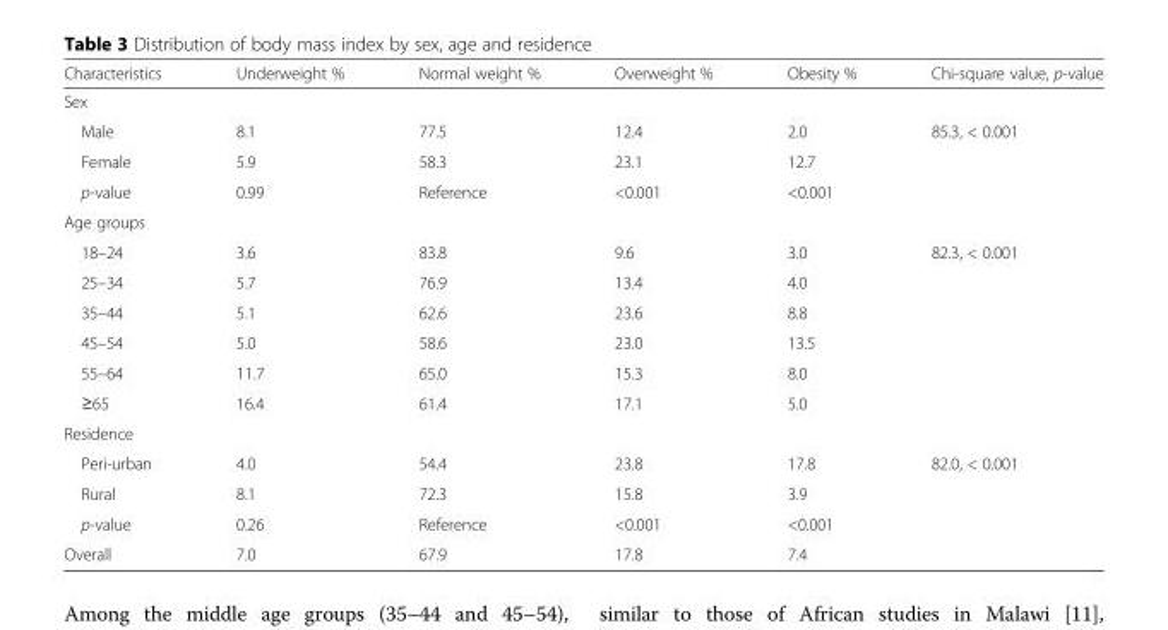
<table><thead><tr><td>Characteristics</td><td>Underweight %</td><td>Normal weight %</td><td>Overweight %</td><td>Obesity %</td><td>Chi-square value, p-value</td></tr></thead><tbody><tr><td colspan="6">Sex</td></tr><tr><td>Male</td><td>8.1</td><td>77.5</td><td>12.4</td><td>2.0</td><td>85.3, &lt; 0.001</td></tr><tr><td>Female</td><td>5.9</td><td>58.3</td><td>23.1</td><td>12.7</td><td></td></tr><tr><td>p-value</td><td>0.99</td><td>Reference</td><td>&lt;0.001</td><td>&lt;0.001</td><td></td></tr><tr><td colspan="6">Age groups</td></tr><tr><td>18–24</td><td>3.6</td><td>83.8</td><td>9.6</td><td>3.0</td><td>82.3, &lt; 0.001</td></tr><tr><td>25–34</td><td>5.7</td><td>76.9</td><td>13.4</td><td>4.0</td><td></td></tr><tr><td>35–44</td><td>5.1</td><td>62.6</td><td>23.6</td><td>8.8</td><td></td></tr><tr><td>45–54</td><td>5.0</td><td>58.6</td><td>23.0</td><td>13.5</td><td></td></tr><tr><td>55–64</td><td>11.7</td><td>65.0</td><td>15.3</td><td>8.0</td><td></td></tr><tr><td>≥65</td><td>16.4</td><td>61.4</td><td>17.1</td><td>5.0</td><td></td></tr><tr><td colspan="6">Residence</td></tr><tr><td>Peri-urban</td><td>4.0</td><td>54.4</td><td>23.8</td><td>17.8</td><td>82.0, &lt; 0.001</td></tr><tr><td>Rural</td><td>8.1</td><td>72.3</td><td>15.8</td><td>3.9</td><td></td></tr><tr><td>p-value</td><td>0.26</td><td>Reference</td><td>&lt;0.001</td><td>&lt;0.001</td><td></td></tr><tr><td>Overall</td><td>7.0</td><td>67.9</td><td>17.8</td><td>7.4</td><td></td></tr></tbody></table>